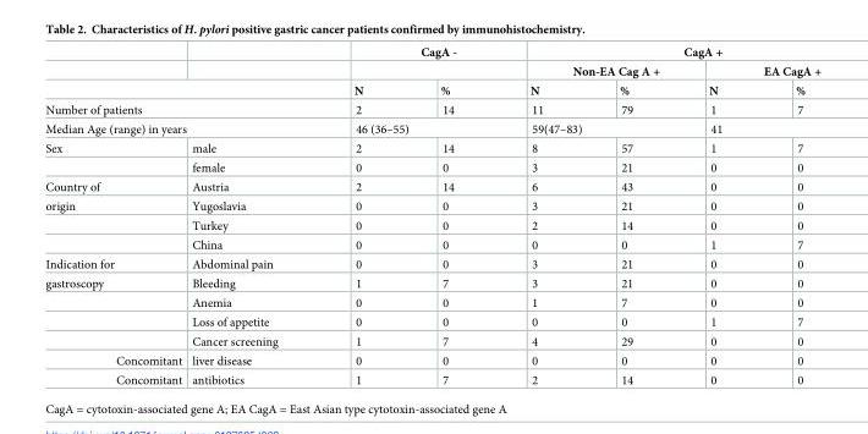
<table><thead><tr><td rowspan="3"></td><td rowspan="3"></td><td colspan="2">CagA -</td><td colspan="4">CagA +</td></tr><tr><td rowspan="2">N</td><td rowspan="2">%</td><td colspan="2">Non-EA Cag A +</td><td colspan="2">EA CagA +</td></tr><tr><td>N</td><td>%</td><td>N</td><td>%</td></tr></thead><tbody><tr><td colspan="2">Number of patients</td><td>2</td><td>14</td><td>11</td><td>79</td><td>1</td><td>7</td></tr><tr><td colspan="2">Median Age (range) in years</td><td colspan="2">46 (36–55)</td><td colspan="2">59(47–83)</td><td colspan="2">41</td></tr><tr><td rowspan="2">Sex</td><td>male</td><td>2</td><td>14</td><td>8</td><td>57</td><td>1</td><td>7</td></tr><tr><td>female</td><td>0</td><td>0</td><td>3</td><td>21</td><td>0</td><td>0</td></tr><tr><td>Country of</td><td>Austria</td><td>2</td><td>14</td><td>6</td><td>43</td><td>0</td><td>0</td></tr><tr><td rowspan="3">origin</td><td>Yugoslavia</td><td>0</td><td>0</td><td>3</td><td>21</td><td>0</td><td>0</td></tr><tr><td>Turkey</td><td>0</td><td>0</td><td>2</td><td>14</td><td>0</td><td>0</td></tr><tr><td>China</td><td>0</td><td>0</td><td>0</td><td>0</td><td>1</td><td>7</td></tr><tr><td>Indication for</td><td>Abdominal pain</td><td>0</td><td>0</td><td>3</td><td>21</td><td>0</td><td>0</td></tr><tr><td rowspan="4">gastroscopy</td><td>Bleeding</td><td>1</td><td>7</td><td>3</td><td>21</td><td>0</td><td>0</td></tr><tr><td>Anemia</td><td>0</td><td>0</td><td>1</td><td>7</td><td>0</td><td>0</td></tr><tr><td>Loss of appetite</td><td>0</td><td>0</td><td>0</td><td>0</td><td>1</td><td>7</td></tr><tr><td>Cancer screening</td><td>1</td><td>7</td><td>4</td><td>29</td><td>0</td><td>0</td></tr><tr><td>Concomitant</td><td>liver disease</td><td>0</td><td>0</td><td>0</td><td>0</td><td>0</td><td>0</td></tr><tr><td>Concomitant</td><td>antibiotics</td><td>1</td><td>7</td><td>2</td><td>14</td><td>0</td><td>0</td></tr></tbody></table>